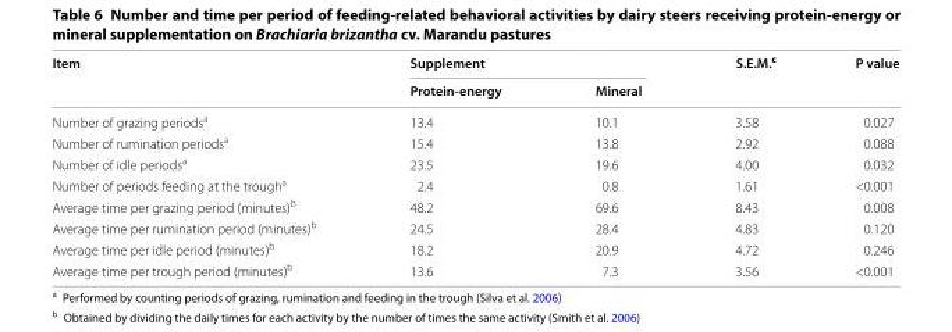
<table><thead><tr><td rowspan="2">Item</td><td colspan="2">Supplement</td><td rowspan="2">S.E.M.<sup>c</sup></td><td rowspan="2">P value</td></tr><tr><td>Protein-energy</td><td>Mineral</td></tr></thead><tbody><tr><td>Number of grazing periods<sup>a</sup></td><td>13.4</td><td>10.1</td><td>3.58</td><td>0.027</td></tr><tr><td>Number of rumination periods<sup>a</sup></td><td>15.4</td><td>13.8</td><td>2.92</td><td>0.088</td></tr><tr><td>Number of idle periods<sup>a</sup></td><td>23.5</td><td>19.6</td><td>4.00</td><td>0.032</td></tr><tr><td>Number of periods feeding at the trough<sup>a</sup></td><td>2.4</td><td>0.8</td><td>1.61</td><td>&lt;0.001</td></tr><tr><td>Average time per grazing period (minutes)<sup>b</sup></td><td>48.2</td><td>69.6</td><td>8.43</td><td>0.008</td></tr><tr><td>Average time per rumination period (minutes)<sup>b</sup></td><td>24.5</td><td>28.4</td><td>4.83</td><td>0.120</td></tr><tr><td>Average time per idle period (minutes)<sup>b</sup></td><td>18.2</td><td>20.9</td><td>4.72</td><td>0.246</td></tr><tr><td>Average time per trough period (minutes)<sup>b</sup></td><td>13.6</td><td>7.3</td><td>3.56</td><td>&lt;0.001</td></tr></tbody></table>